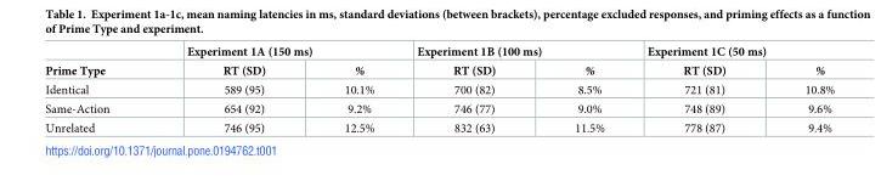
<table><thead><tr><td rowspan="2">Prime Type</td><td colspan="2">Experiment 1A (150 ms)</td><td colspan="2">Experiment 1B (100 ms)</td><td colspan="2">Experiment 1C (50 ms)</td></tr><tr><td>RT (SD)</td><td>%</td><td>RT (SD)</td><td>%</td><td>RT (SD)</td><td>%</td></tr></thead><tbody><tr><td>Identical</td><td>589 (95)</td><td>10.1%</td><td>700 (82)</td><td>8.5%</td><td>721 (81)</td><td>10.8%</td></tr><tr><td>Same-Action</td><td>654 (92)</td><td>9.2%</td><td>746 (77)</td><td>9.0%</td><td>748 (89)</td><td>9.6%</td></tr><tr><td>Unrelated</td><td>746 (95)</td><td>12.5%</td><td>832 (63)</td><td>11.5%</td><td>778 (87)</td><td>9.4%</td></tr></tbody></table>